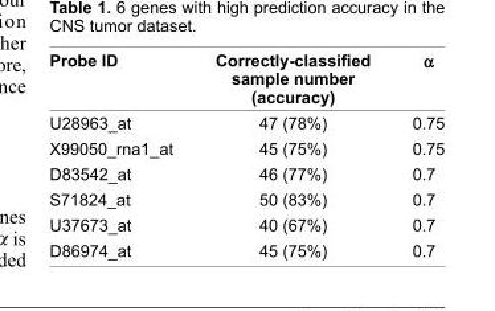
<table><thead><tr><td>Probe ID</td><td>Correctly-classifi ed sample number (accuracy)</td><td>α</td></tr></thead><tbody><tr><td>U28963_at</td><td>47 (78%)</td><td>0.75</td></tr><tr><td>X99050_rna1_at</td><td>45 (75%)</td><td>0.75</td></tr><tr><td>D83542_at</td><td>46 (77%)</td><td>0.7</td></tr><tr><td>S71824_at</td><td>50 (83%)</td><td>0.7</td></tr><tr><td>U37673_at</td><td>40 (67%)</td><td>0.7</td></tr><tr><td>D86974_at</td><td>45 (75%)</td><td>0.7</td></tr></tbody></table>